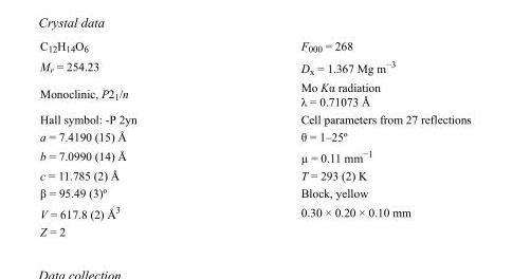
<table><tbody><tr><td>C<sub>12</sub>H<sub>14</sub>O<sub>6</sub></td><td>F000 = 268</td></tr><tr><td>M<sub>r</sub> = 254.23</td><td>D<sub>x</sub> = 1.367 Mg m<sup>−3</sup></td></tr><tr><td>Monoclinic, P2<sub>1</sub>/n</td><td>Mo Kα radiation λ = 0.71073 Å</td></tr><tr><td>Hall symbol: -P 2yn</td><td>Cell parameters from 27 reflections</td></tr><tr><td>a = 7.4190 (15) Å</td><td>θ = 1–25º</td></tr><tr><td>b = 7.0990 (14) Å</td><td>µ = 0.11 mm<sup>−1</sup></td></tr><tr><td>c = 11.785 (2) Å</td><td>T = 293 (2) K</td></tr><tr><td>β = 95.49 (3)º</td><td>Block, yellow</td></tr><tr><td>V = 617.8 (2) Å<sup>3</sup></td><td>0.30 × 0.20 × 0.10 mm</td></tr><tr><td>Z = 2</td><td></td></tr></tbody></table>